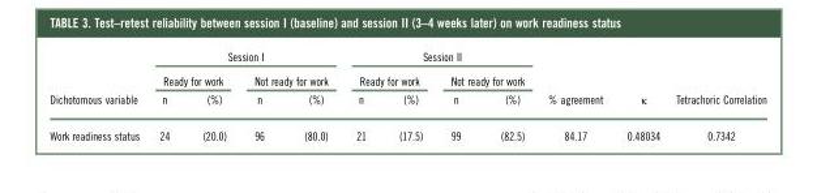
<table><thead><tr><td rowspan="3">Dichotomous variable</td><td colspan="4">Session I</td><td colspan="4">Session II</td><td rowspan="3">% agreement</td><td rowspan="3">κ</td><td rowspan="3">Tetrachoric Correlation</td></tr><tr><td colspan="2">Ready for work</td><td colspan="2">Not ready for work</td><td colspan="2">Ready for work</td><td colspan="2">Not ready for work</td></tr><tr><td>n</td><td>(%)</td><td>n</td><td>(%)</td><td>n</td><td>(%)</td><td>n</td><td>(%)</td></tr></thead><tbody><tr><td>Work readiness status</td><td>24</td><td>(20.0)</td><td>96</td><td>(80.0)</td><td>21</td><td>(17.5)</td><td>99</td><td>(82.5)</td><td>84.17</td><td>0.48034</td><td>0.7342</td></tr></tbody></table>